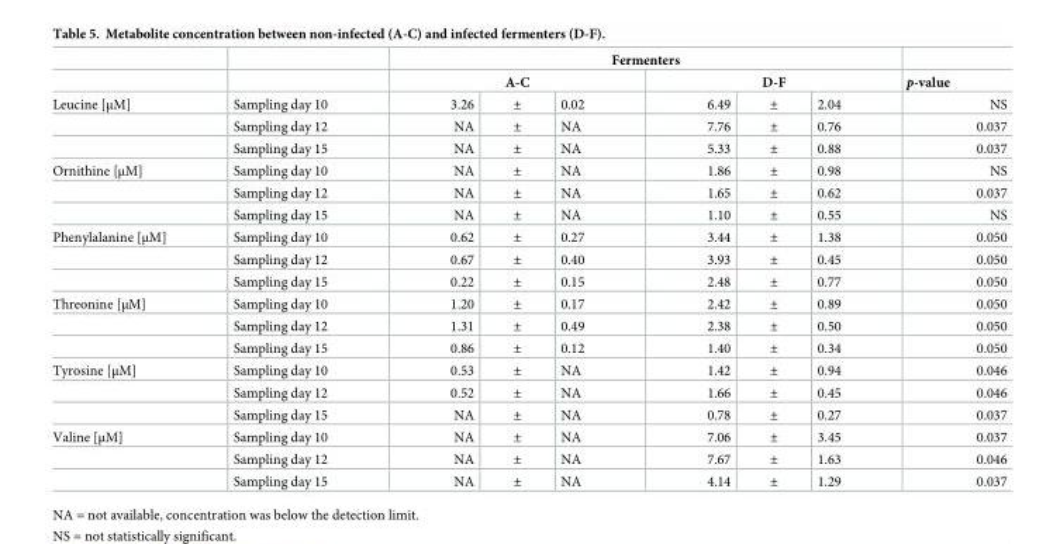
<table><thead><tr><td rowspan="3">Leucine [μM]</td><td rowspan="3">Sampling day 10</td><td colspan="6">Fermenters</td><td rowspan="3">p-value NS</td></tr><tr><td colspan="3">A-C</td><td colspan="3">D-F</td></tr><tr><td>3.26</td><td>±</td><td>0.02</td><td>6.49</td><td>±</td><td>2.04</td></tr></thead><tbody><tr><td></td><td>Sampling day 12</td><td>NA</td><td>±</td><td>NA</td><td>7.76</td><td>±</td><td>0.76</td><td>0.037</td></tr><tr><td></td><td>Sampling day 15</td><td>NA</td><td>±</td><td>NA</td><td>5.33</td><td>±</td><td>0.88</td><td>0.037</td></tr><tr><td rowspan="3">Ornithine [μM]</td><td>Sampling day 10</td><td>NA</td><td>±</td><td>NA</td><td>1.86</td><td>±</td><td>0.98</td><td>NS</td></tr><tr><td>Sampling day 12</td><td>NA</td><td>±</td><td>NA</td><td>1.65</td><td>±</td><td>0.62</td><td>0.037</td></tr><tr><td>Sampling day 15</td><td>NA</td><td>±</td><td>NA</td><td>1.10</td><td>±</td><td>0.55</td><td>NS</td></tr><tr><td rowspan="3">Phenylalanine [μM]</td><td>Sampling day 10</td><td>0.62</td><td>±</td><td>0.27</td><td>3.44</td><td>±</td><td>1.38</td><td>0.050</td></tr><tr><td>Sampling day 12</td><td>0.67</td><td>±</td><td>0.40</td><td>3.93</td><td>±</td><td>0.45</td><td>0.050</td></tr><tr><td>Sampling day 15</td><td>0.22</td><td>±</td><td>0.15</td><td>2.48</td><td>±</td><td>0.77</td><td>0.050</td></tr><tr><td rowspan="3">Threonine [μM]</td><td>Sampling day 10</td><td>1.20</td><td>±</td><td>0.17</td><td>2.42</td><td>±</td><td>0.89</td><td>0.050</td></tr><tr><td>Sampling day 12</td><td>1.31</td><td>±</td><td>0.49</td><td>2.38</td><td>±</td><td>0.50</td><td>0.050</td></tr><tr><td>Sampling day 15</td><td>0.86</td><td>±</td><td>0.12</td><td>1.40</td><td>±</td><td>0.34</td><td>0.050</td></tr><tr><td rowspan="3">Tyrosine [μM]</td><td>Sampling day 10</td><td>0.53</td><td>±</td><td>NA</td><td>1.42</td><td>±</td><td>0.94</td><td>0.046</td></tr><tr><td>Sampling day 12</td><td>0.52</td><td>±</td><td>NA</td><td>1.66</td><td>±</td><td>0.45</td><td>0.046</td></tr><tr><td>Sampling day 15</td><td>NA</td><td>±</td><td>NA</td><td>0.78</td><td>±</td><td>0.27</td><td>0.037</td></tr><tr><td rowspan="3">Valine [μM]</td><td>Sampling day 10</td><td>NA</td><td>±</td><td>NA</td><td>7.06</td><td>±</td><td>3.45</td><td>0.037</td></tr><tr><td>Sampling day 12</td><td>NA</td><td>±</td><td>NA</td><td>7.67</td><td>±</td><td>1.63</td><td>0.046</td></tr><tr><td>Sampling day 15</td><td>NA</td><td>±</td><td>NA</td><td>4.14</td><td>±</td><td>1.29</td><td>0.037</td></tr></tbody></table>